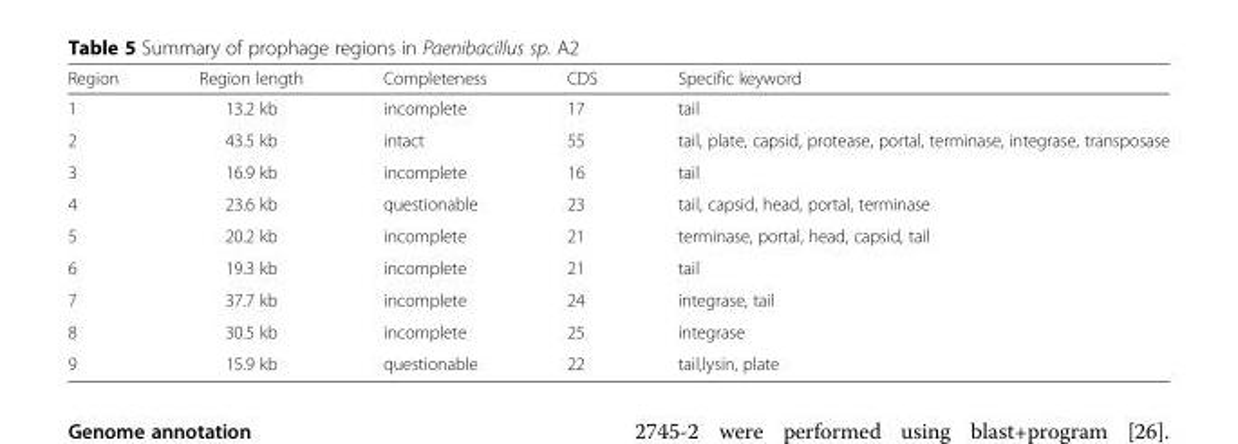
<table><thead><tr><td>Region</td><td>Region length</td><td>Completeness</td><td>CDS</td><td>Specific keyword</td></tr></thead><tbody><tr><td>1</td><td>13.2 kb</td><td>incomplete</td><td>17</td><td>tail</td></tr><tr><td>2</td><td>43.5 kb</td><td>intact</td><td>55</td><td>tail, plate, capsid, protease, portal, terminase, integrase, transposase</td></tr><tr><td>3</td><td>16.9 kb</td><td>incomplete</td><td>16</td><td>tail</td></tr><tr><td>4</td><td>23.6 kb</td><td>questionable</td><td>23</td><td>tail, capsid, head, portal, terminase</td></tr><tr><td>5</td><td>20.2 kb</td><td>incomplete</td><td>21</td><td>terminase, portal, head, capsid, tail</td></tr><tr><td>6</td><td>19.3 kb</td><td>incomplete</td><td>21</td><td>tail</td></tr><tr><td>7</td><td>37.7 kb</td><td>incomplete</td><td>24</td><td>integrase, tail</td></tr><tr><td>8</td><td>30.5 kb</td><td>incomplete</td><td>25</td><td>integrase</td></tr><tr><td>9</td><td>15.9 kb</td><td>questionable</td><td>22</td><td>tail,lysin, plate</td></tr></tbody></table>